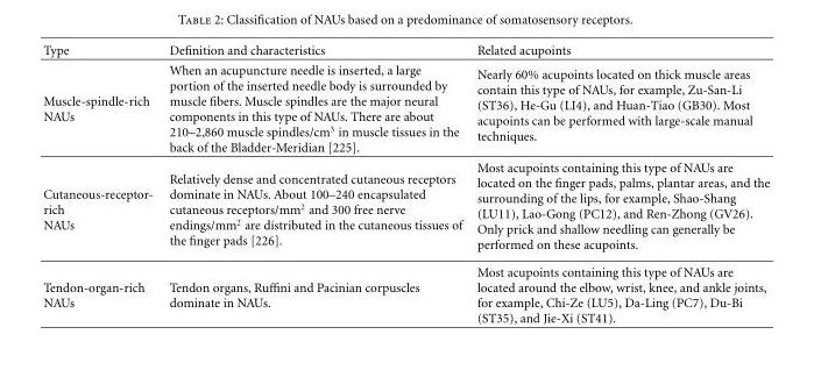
<table><thead><tr><td>Type</td><td>Definition and characteristics</td><td>Related acupoints</td></tr></thead><tbody><tr><td>Muscle-spindle-rich NAUs</td><td>When an acupuncture needle is inserted, a large portion of the inserted needle body is surrounded by muscle fibers. Muscle spindles are the major neural components in this type of NAUs. There are about 210–2,860 muscle spindles/cm<sup>3</sup> in muscle tissues in the back of the Bladder-Meridian [225].</td><td>Nearly 60% acupoints located on thick muscle areas contain this type of NAUs, for example, Zu-San-Li (ST36), He-Gu (LI4), and Huan-Tiao (GB30). Most acupoints can be performed with large-scale manual techniques.</td></tr><tr><td>Cutaneous-receptor- rich NAUs</td><td>Relatively dense and concentrated cutaneous receptors dominate in NAUs. About 100–240 encapsulated cutaneous receptors/mm<sup>2</sup> and 300 free nerve endings/mm<sup>2</sup> are distributed in the cutaneous tissues of the finger pads [226].</td><td>Most acupoints containing this type of NAUs are located on the finger pads, palms, plantar areas, and the surrounding of the lips, for example, Shao-Shang (LU11), Lao-Gong (PC12), and Ren-Zhong (GV26). Only prick and shallow needling can generally be performed on these acupoints.</td></tr><tr><td>Tendon-organ-rich NAUs</td><td>Tendon organs, Ruffini and Pacinian corpuscles dominate in NAUs.</td><td>Most acupoints containing this type of NAUs are located around the elbow, wrist, knee, and ankle joints, for example, Chi-Ze (LU5), Da-Ling (PC7), Du-Bi (ST35), and Jie-Xi (ST41).</td></tr></tbody></table>